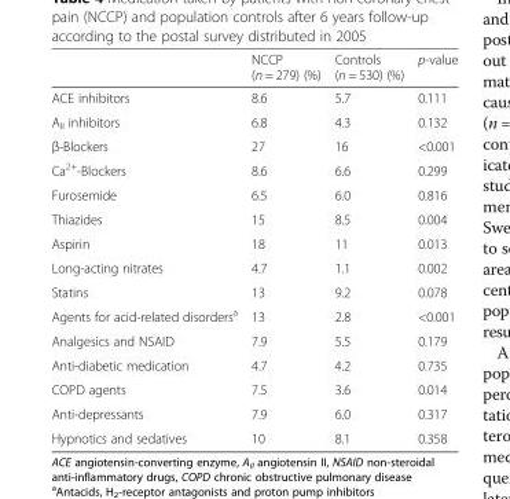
<table><thead><tr><td></td><td>NCCP (n = 279) (%)</td><td>Controls (n = 530) (%)</td><td>p-value</td></tr></thead><tbody><tr><td>ACE inhibitors</td><td>8.6</td><td>5.7</td><td>0.111</td></tr><tr><td>A<sub>II</sub> inhibitors</td><td>6.8</td><td>4.3</td><td>0.132</td></tr><tr><td>β-Blockers</td><td>27</td><td>16</td><td>&lt;0.001</td></tr><tr><td>Ca<sup>2+</sup>-Blockers</td><td>8.6</td><td>6.6</td><td>0.299</td></tr><tr><td>Furosemide</td><td>6.5</td><td>6.0</td><td>0.816</td></tr><tr><td>Thiazides</td><td>15</td><td>8.5</td><td>0.004</td></tr><tr><td>Aspirin</td><td>18</td><td>11</td><td>0.013</td></tr><tr><td>Long-acting nitrates</td><td>4.7</td><td>1.1</td><td>0.002</td></tr><tr><td>Statins</td><td>13</td><td>9.2</td><td>0.078</td></tr><tr><td>Agents for acid-related disorders<sup>a</sup></td><td>13</td><td>2.8</td><td>&lt;0.001</td></tr><tr><td>Analgesics and NSAID</td><td>7.9</td><td>5.5</td><td>0.179</td></tr><tr><td>Anti-diabetic medication</td><td>4.7</td><td>4.2</td><td>0.735</td></tr><tr><td>COPD agents</td><td>7.5</td><td>3.6</td><td>0.014</td></tr><tr><td>Anti-depressants</td><td>7.9</td><td>6.0</td><td>0.317</td></tr><tr><td>Hypnotics and sedatives</td><td>10</td><td>8.1</td><td>0.358</td></tr></tbody></table>